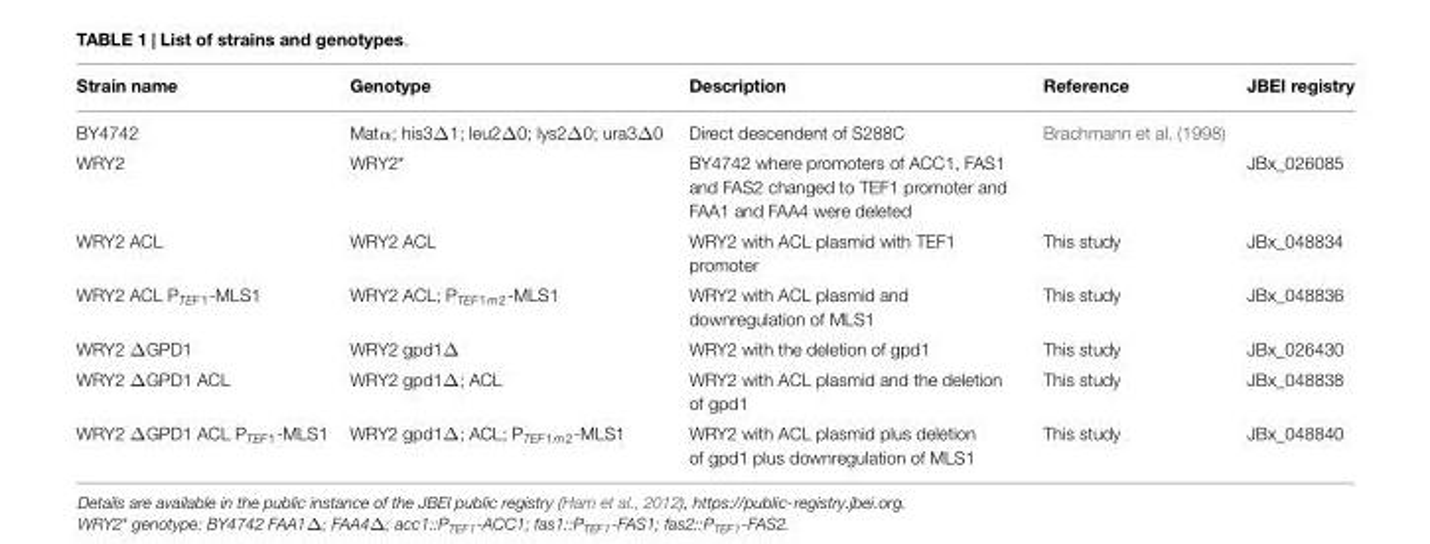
<table><thead><tr><td>Strain name</td><td>Genotype</td><td>Description</td><td>Reference</td><td>JBEI registry</td></tr></thead><tbody><tr><td>BY4742</td><td>Matα; his3∆1; leu2∆0; lys2∆0; ura3∆0</td><td>Direct descendent of S288C</td><td>Brachmann et al. (1998)</td><td></td></tr><tr><td>WRY2</td><td>WRY2*</td><td>BY4742 where promoters of ACC1, FAS1 and FAS2 changed to TEF1 promoter and FAA1 and FAA4 were deleted</td><td></td><td>JBx_026085</td></tr><tr><td>WRY2 ACL</td><td>WRY2 ACL</td><td>WRY2 with ACL plasmid with TEF1 promoter</td><td>This study</td><td>JBx_048834</td></tr><tr><td>WRY2 ACL P<sub>TEF1</sub>-MLS1</td><td>WRY2 ACL; P<sub>TEF1m2</sub>-MLS1</td><td>WRY2 with ACL plasmid and downregulation of MLS1</td><td>This study</td><td>JBx_048836</td></tr><tr><td>WRY2 ∆GPD1</td><td>WRY2 gpd1∆</td><td>WRY2 with the deletion of gpd1</td><td>This study</td><td>JBx_026430</td></tr><tr><td>WRY2 ∆GPD1 ACL</td><td>WRY2 gpd1∆; ACL</td><td>WRY2 with ACL plasmid and the deletion of gpd1</td><td>This study</td><td>JBx_048838</td></tr><tr><td>WRY2 ∆GPD1 ACL PTEF1-MLS1</td><td>WRY2 gpd1∆; ACL; PTEF1m2-MLS1</td><td>WRY2 with ACL plasmid plus deletion of gpd1 plus downregulation of MLS1</td><td>This study</td><td>JBx_048840</td></tr></tbody></table>